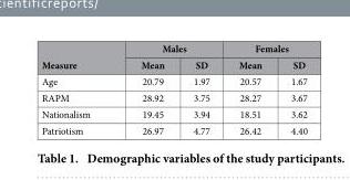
<table><thead><tr><td rowspan="2">Measure</td><td colspan="2">Males</td><td colspan="2">Females</td></tr><tr><td>Mean</td><td>SD</td><td>Mean</td><td>SD</td></tr></thead><tbody><tr><td>Age</td><td>20.79</td><td>1.97</td><td>20.57</td><td>1.67</td></tr><tr><td>RAPM</td><td>28.92</td><td>3.75</td><td>28.27</td><td>3.67</td></tr><tr><td>Nationalism</td><td>19.45</td><td>3.94</td><td>18.51</td><td>3.62</td></tr><tr><td>Patriotism</td><td>26.97</td><td>4.77</td><td>26.42</td><td>4.40</td></tr></tbody></table>